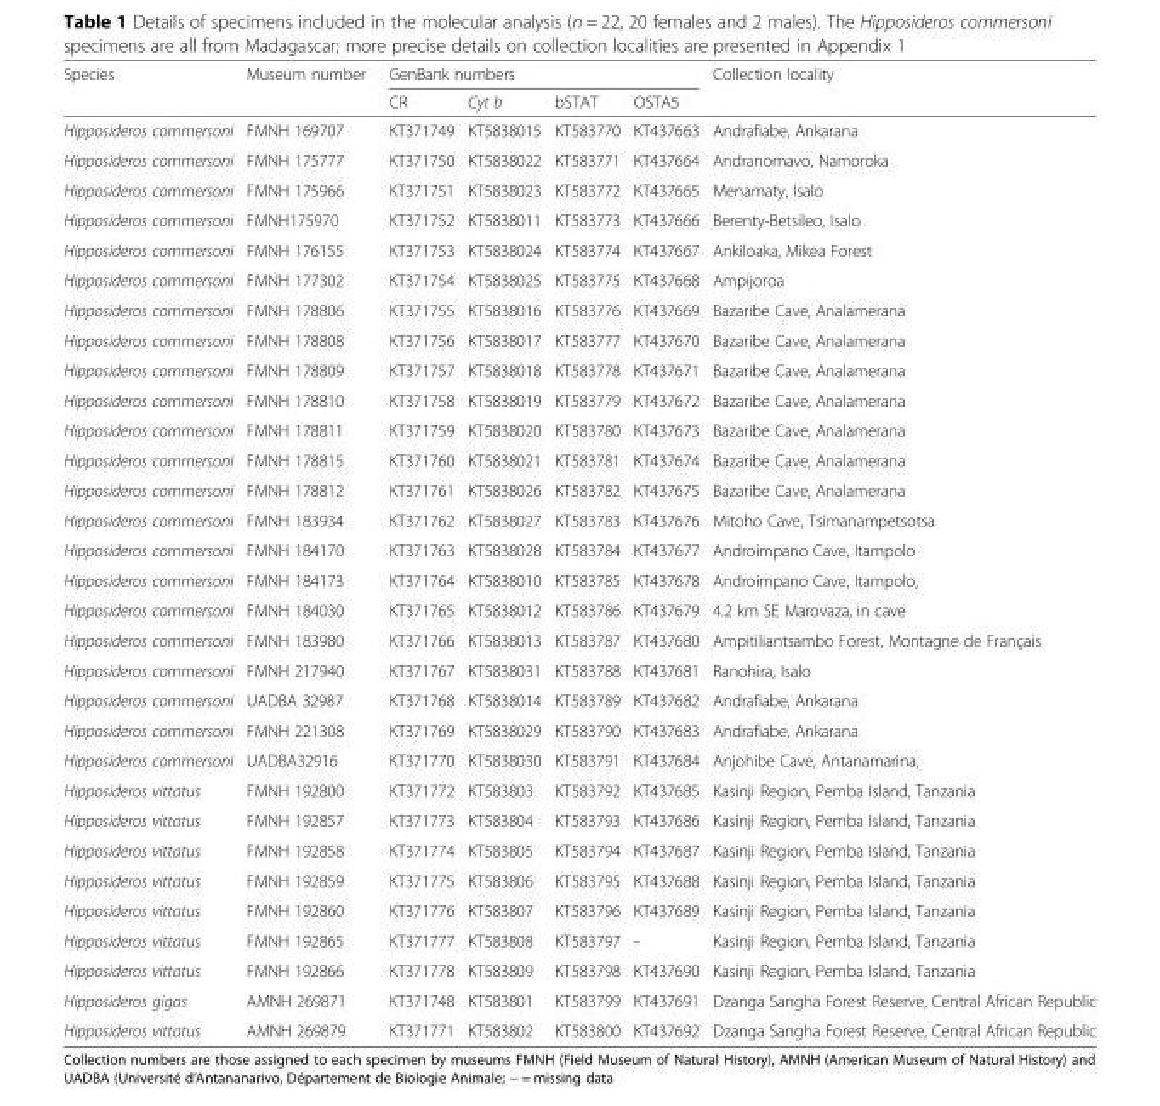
<table><thead><tr><td rowspan="2">Species</td><td rowspan="2">Museum number</td><td colspan="4">GenBank numbers</td><td rowspan="2">Collection locality</td></tr><tr><td>CR</td><td>Cyt b</td><td>bSTAT</td><td>OSTA5</td></tr></thead><tbody><tr><td>Hipposideros commersoni</td><td>FMNH 169707</td><td>KT371749</td><td>KT5838015</td><td>KT583770</td><td>KT437663</td><td>Andrafiabe, Ankarana</td></tr><tr><td>Hipposideros commersoni</td><td>FMNH 175777</td><td>KT371750</td><td>KT5838022</td><td>KT583771</td><td>KT437664</td><td>Andranomavo, Namoroka</td></tr><tr><td>Hipposideros commersoni</td><td>FMNH 175966</td><td>KT371751</td><td>KT5838023</td><td>KT583772</td><td>KT437665</td><td>Menamaty, Isalo</td></tr><tr><td>Hipposideros commersoni</td><td>FMNH175970</td><td>KT371752</td><td>KT5838011</td><td>KT583773</td><td>KT437666</td><td>Berenty-Betsileo, Isalo</td></tr><tr><td>Hipposideros commersoni</td><td>FMNH 176155</td><td>KT371753</td><td>KT5838024</td><td>KT583774</td><td>KT437667</td><td>Ankiloaka, Mikea Forest</td></tr><tr><td>Hipposideros commersoni</td><td>FMNH 177302</td><td>KT371754</td><td>KT5838025</td><td>KT583775</td><td>KT437668</td><td>Ampijoroa</td></tr><tr><td>Hipposideros commersoni</td><td>FMNH 178806</td><td>KT371755</td><td>KT5838016</td><td>KT583776</td><td>KT437669</td><td>Bazaribe Cave, Analamerana</td></tr><tr><td>Hipposideros commersoni</td><td>FMNH 178808</td><td>KT371756</td><td>KT5838017</td><td>KT583777</td><td>KT437670</td><td>Bazaribe Cave, Analamerana</td></tr><tr><td>Hipposideros commersoni</td><td>FMNH 178809</td><td>KT371757</td><td>KT5838018</td><td>KT583778</td><td>KT437671</td><td>Bazaribe Cave, Analamerana</td></tr><tr><td>Hipposideros commersoni</td><td>FMNH 178810</td><td>KT371758</td><td>KT5838019</td><td>KT583779</td><td>KT437672</td><td>Bazaribe Cave, Analamerana</td></tr><tr><td>Hipposideros commersoni</td><td>FMNH 178811</td><td>KT371759</td><td>KT5838020</td><td>KT583780</td><td>KT437673</td><td>Bazaribe Cave, Analamerana</td></tr><tr><td>Hipposideros commersoni</td><td>FMNH 178815</td><td>KT371760</td><td>KT5838021</td><td>KT583781</td><td>KT437674</td><td>Bazaribe Cave, Analamerana</td></tr><tr><td>Hipposideros commersoni</td><td>FMNH 178812</td><td>KT371761</td><td>KT5838026</td><td>KT583782</td><td>KT437675</td><td>Bazaribe Cave, Analamerana</td></tr><tr><td>Hipposideros commersoni</td><td>FMNH 183934</td><td>KT371762</td><td>KT5838027</td><td>KT583783</td><td>KT437676</td><td>Mitoho Cave, Tsimanampetsotsa</td></tr><tr><td>Hipposideros commersoni</td><td>FMNH 184170</td><td>KT371763</td><td>KT5838028</td><td>KT583784</td><td>KT437677</td><td>Androimpano Cave, Itampolo</td></tr><tr><td>Hipposideros commersoni</td><td>FMNH 184173</td><td>KT371764</td><td>KT5838010</td><td>KT583785</td><td>KT437678</td><td>Androimpano Cave, Itampolo,</td></tr><tr><td>Hipposideros commersoni</td><td>FMNH 184030</td><td>KT371765</td><td>KT5838012</td><td>KT583786</td><td>KT437679</td><td>4.2 km SE Marovaza, in cave</td></tr><tr><td>Hipposideros commersoni</td><td>FMNH 183980</td><td>KT371766</td><td>KT5838013</td><td>KT583787</td><td>KT437680</td><td>Ampitiliantsambo Forest, Montagne de Français</td></tr><tr><td>Hipposideros commersoni</td><td>FMNH 217940</td><td>KT371767</td><td>KT5838031</td><td>KT583788</td><td>KT437681</td><td>Ranohira, Isalo</td></tr><tr><td>Hipposideros commersoni</td><td>UADBA 32987</td><td>KT371768</td><td>KT5838014</td><td>KT583789</td><td>KT437682</td><td>Andrafiabe, Ankarana</td></tr><tr><td>Hipposideros commersoni</td><td>FMNH 221308</td><td>KT371769</td><td>KT5838029</td><td>KT583790</td><td>KT437683</td><td>Andrafiabe, Ankarana</td></tr><tr><td>Hipposideros commersoni</td><td>UADBA32916</td><td>KT371770</td><td>KT5838030</td><td>KT583791</td><td>KT437684</td><td>Anjohibe Cave, Antanamarina,</td></tr><tr><td>Hipposideros vittatus</td><td>FMNH 192800</td><td>KT371772</td><td>KT583803</td><td>KT583792</td><td>KT437685</td><td>Kasinji Region, Pemba Island, Tanzania</td></tr><tr><td>Hipposideros vittatus</td><td>FMNH 192857</td><td>KT371773</td><td>KT583804</td><td>KT583793</td><td>KT437686</td><td>Kasinji Region, Pemba Island, Tanzania</td></tr><tr><td>Hipposideros vittatus</td><td>FMNH 192858</td><td>KT371774</td><td>KT583805</td><td>KT583794</td><td>KT437687</td><td>Kasinji Region, Pemba Island, Tanzania</td></tr><tr><td>Hipposideros vittatus</td><td>FMNH 192859</td><td>KT371775</td><td>KT583806</td><td>KT583795</td><td>KT437688</td><td>Kasinji Region, Pemba Island, Tanzania</td></tr><tr><td>Hipposideros vittatus</td><td>FMNH 192860</td><td>KT371776</td><td>KT583807</td><td>KT583796</td><td>KT437689</td><td>Kasinji Region, Pemba Island, Tanzania</td></tr><tr><td>Hipposideros vittatus</td><td>FMNH 192865</td><td>KT371777</td><td>KT583808</td><td>KT583797</td><td>-</td><td>Kasinji Region, Pemba Island, Tanzania</td></tr><tr><td>Hipposideros vittatus</td><td>FMNH 192866</td><td>KT371778</td><td>KT583809</td><td>KT583798</td><td>KT437690</td><td>Kasinji Region, Pemba Island, Tanzania</td></tr><tr><td>Hipposideros gigas</td><td>AMNH 269871</td><td>KT371748</td><td>KT583801</td><td>KT583799</td><td>KT437691</td><td>Dzanga Sangha Forest Reserve, Central African Republic</td></tr><tr><td>Hipposideros vittatus</td><td>AMNH 269879</td><td>KT371771</td><td>KT583802</td><td>KT583800</td><td>KT437692</td><td>Dzanga Sangha Forest Reserve, Central African Republic</td></tr></tbody></table>